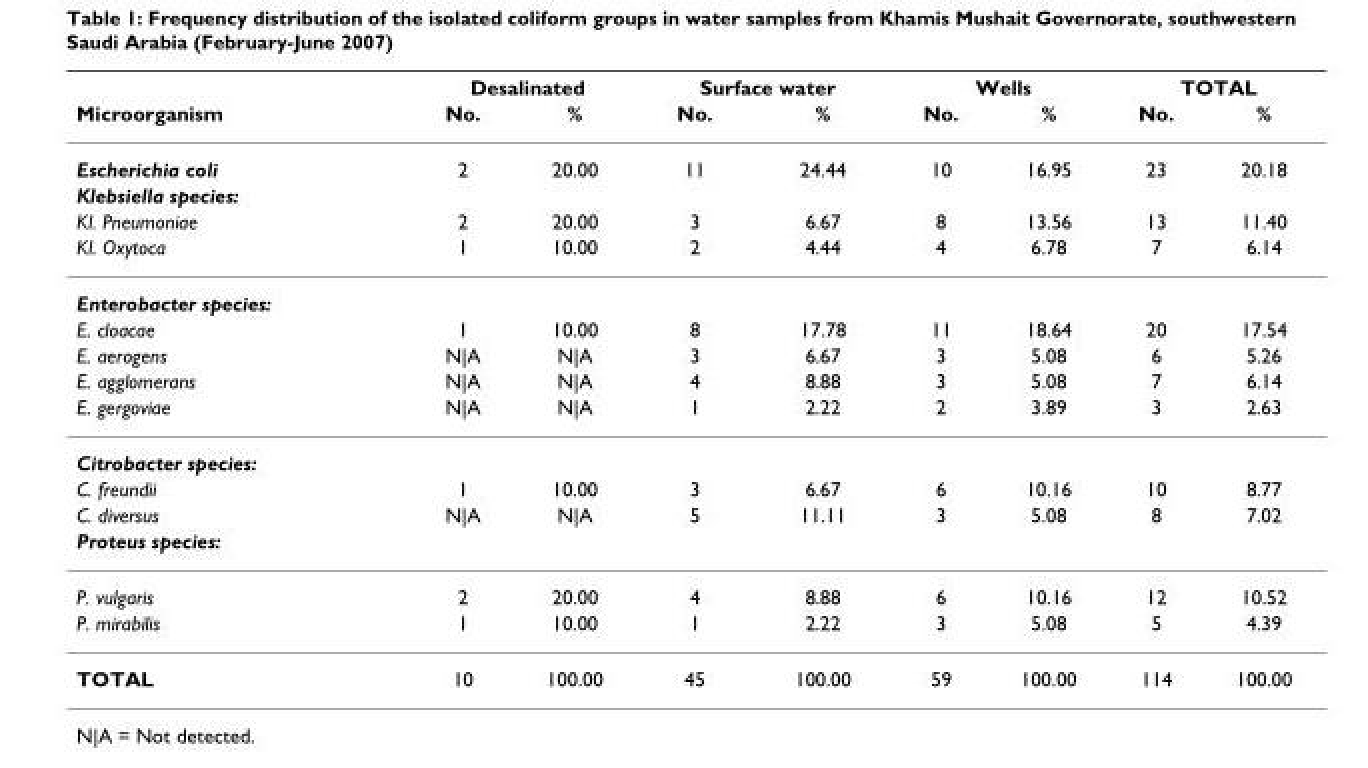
<table><thead><tr><td rowspan="2">Microorganism</td><td colspan="2">Desalinated</td><td colspan="2">Surface water</td><td colspan="2">Wells</td><td colspan="2">TOTAL</td></tr><tr><td>No.</td><td>%</td><td>No.</td><td>%</td><td>No.</td><td>%</td><td>No.</td><td>%</td></tr></thead><tbody><tr><td>Escherichia coli</td><td>2</td><td>20.00</td><td>11</td><td>24.44</td><td>10</td><td>16.95</td><td>23</td><td>20.18</td></tr><tr><td colspan="9">Klebsiella species:</td></tr><tr><td>Kl. Pneumoniae</td><td>2</td><td>20.00</td><td>3</td><td>6.67</td><td>8</td><td>13.56</td><td>13</td><td>11.40</td></tr><tr><td>Kl. Oxytoca</td><td>1</td><td>10.00</td><td>2</td><td>4.44</td><td>4</td><td>6.78</td><td>7</td><td>6.14</td></tr><tr><td colspan="9">Enterobacter species:</td></tr><tr><td>E. cloacae</td><td>1</td><td>10.00</td><td>8</td><td>17.78</td><td>11</td><td>18.64</td><td>20</td><td>17.54</td></tr><tr><td>E. aerogens</td><td>N|A</td><td>N|A</td><td>3</td><td>6.67</td><td>3</td><td>5.08</td><td>6</td><td>5.26</td></tr><tr><td>E. agglomerans</td><td>N|A</td><td>N|A</td><td>4</td><td>8.88</td><td>3</td><td>5.08</td><td>7</td><td>6.14</td></tr><tr><td>E. gergoviae</td><td>N|A</td><td>N|A</td><td>1</td><td>2.22</td><td>2</td><td>3.89</td><td>3</td><td>2.63</td></tr><tr><td colspan="9">Citrobacter species:</td></tr><tr><td>C. freundii</td><td>1</td><td>10.00</td><td>3</td><td>6.67</td><td>6</td><td>10.16</td><td>10</td><td>8.77</td></tr><tr><td>C. diversus</td><td>N|A</td><td>N|A</td><td>5</td><td>11.11</td><td>3</td><td>5.08</td><td>8</td><td>7.02</td></tr><tr><td colspan="9">Proteus species:</td></tr><tr><td>P. vulgaris</td><td>2</td><td>20.00</td><td>4</td><td>8.88</td><td>6</td><td>10.16</td><td>12</td><td>10.52</td></tr><tr><td>P. mirabilis</td><td>1</td><td>10.00</td><td>1</td><td>2.22</td><td>3</td><td>5.08</td><td>5</td><td>4.39</td></tr><tr><td>TOTAL</td><td>10</td><td>100.00</td><td>45</td><td>100.00</td><td>59</td><td>100.00</td><td>114</td><td>100.00</td></tr></tbody></table>